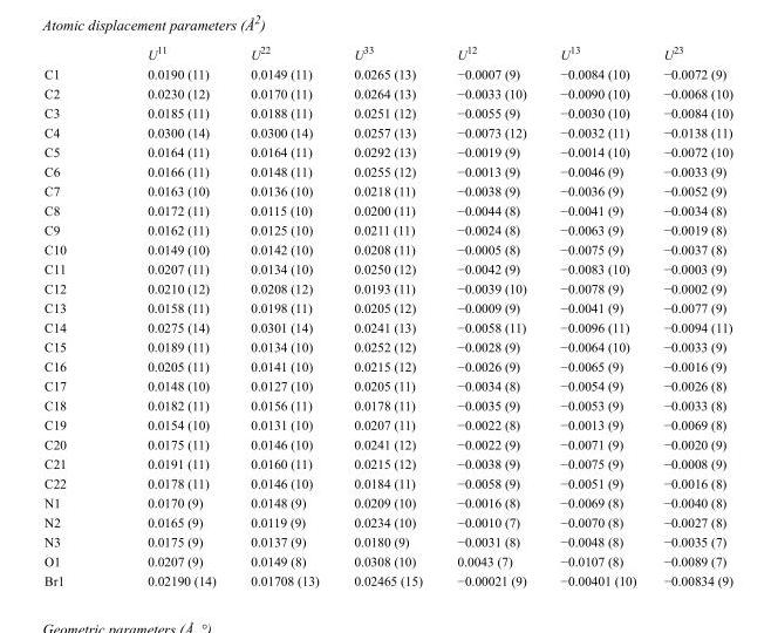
<table><thead><tr><td></td><td>U<sup>11</sup></td><td>U<sup>22</sup></td><td>U<sup>33</sup></td><td>U<sup>12</sup></td><td>U<sup>13</sup></td><td>U<sup>23</sup></td></tr></thead><tbody><tr><td>C1</td><td>0.0190 (11)</td><td>0.0149 (11)</td><td>0.0265 (13)</td><td>−0.0007 (9)</td><td>−0.0084 (10)</td><td>−0.0072 (9)</td></tr><tr><td>C2</td><td>0.0230 (12)</td><td>0.0170 (11)</td><td>0.0264 (13)</td><td>−0.0033 (10)</td><td>−0.0090 (10)</td><td>−0.0068 (10)</td></tr><tr><td>C3</td><td>0.0185 (11)</td><td>0.0188 (11)</td><td>0.0251 (12)</td><td>−0.0055 (9)</td><td>−0.0030 (10)</td><td>−0.0084 (10)</td></tr><tr><td>C4</td><td>0.0300 (14)</td><td>0.0300 (14)</td><td>0.0257 (13)</td><td>−0.0073 (12)</td><td>−0.0032 (11)</td><td>−0.0138 (11)</td></tr><tr><td>C5</td><td>0.0164 (11)</td><td>0.0164 (11)</td><td>0.0292 (13)</td><td>−0.0019 (9)</td><td>−0.0014 (10)</td><td>−0.0072 (10)</td></tr><tr><td>C6</td><td>0.0166 (11)</td><td>0.0148 (11)</td><td>0.0255 (12)</td><td>−0.0013 (9)</td><td>−0.0046 (9)</td><td>−0.0033 (9)</td></tr><tr><td>C7</td><td>0.0163 (10)</td><td>0.0136 (10)</td><td>0.0218 (11)</td><td>−0.0038 (9)</td><td>−0.0036 (9)</td><td>−0.0052 (9)</td></tr><tr><td>C8</td><td>0.0172 (11)</td><td>0.0115 (10)</td><td>0.0200 (11)</td><td>−0.0044 (8)</td><td>−0.0041 (9)</td><td>−0.0034 (8)</td></tr><tr><td>C9</td><td>0.0162 (11)</td><td>0.0125 (10)</td><td>0.0211 (11)</td><td>−0.0024 (8)</td><td>−0.0063 (9)</td><td>−0.0019 (8)</td></tr><tr><td>C10</td><td>0.0149 (10)</td><td>0.0142 (10)</td><td>0.0208 (11)</td><td>−0.0005 (8)</td><td>−0.0075 (9)</td><td>−0.0037 (8)</td></tr><tr><td>C11</td><td>0.0207 (11)</td><td>0.0134 (10)</td><td>0.0250 (12)</td><td>−0.0042 (9)</td><td>−0.0083 (10)</td><td>−0.0003 (9)</td></tr><tr><td>C12</td><td>0.0210 (12)</td><td>0.0208 (12)</td><td>0.0193 (11)</td><td>−0.0039 (10)</td><td>−0.0078 (9)</td><td>−0.0002 (9)</td></tr><tr><td>C13</td><td>0.0158 (11)</td><td>0.0198 (11)</td><td>0.0205 (12)</td><td>−0.0009 (9)</td><td>−0.0041 (9)</td><td>−0.0077 (9)</td></tr><tr><td>C14</td><td>0.0275 (14)</td><td>0.0301 (14)</td><td>0.0241 (13)</td><td>−0.0058 (11)</td><td>−0.0096 (11)</td><td>−0.0094 (11)</td></tr><tr><td>C15</td><td>0.0189 (11)</td><td>0.0134 (10)</td><td>0.0252 (12)</td><td>−0.0028 (9)</td><td>−0.0064 (10)</td><td>−0.0033 (9)</td></tr><tr><td>C16</td><td>0.0205 (11)</td><td>0.0141 (10)</td><td>0.0215 (12)</td><td>−0.0026 (9)</td><td>−0.0065 (9)</td><td>−0.0016 (9)</td></tr><tr><td>C17</td><td>0.0148 (10)</td><td>0.0127 (10)</td><td>0.0205 (11)</td><td>−0.0034 (8)</td><td>−0.0054 (9)</td><td>−0.0026 (8)</td></tr><tr><td>C18</td><td>0.0182 (11)</td><td>0.0156 (11)</td><td>0.0178 (11)</td><td>−0.0035 (9)</td><td>−0.0053 (9)</td><td>−0.0033 (8)</td></tr><tr><td>C19</td><td>0.0154 (10)</td><td>0.0131 (10)</td><td>0.0207 (11)</td><td>−0.0022 (8)</td><td>−0.0013 (9)</td><td>−0.0069 (8)</td></tr><tr><td>C20</td><td>0.0175 (11)</td><td>0.0146 (10)</td><td>0.0241 (12)</td><td>−0.0022 (9)</td><td>−0.0071 (9)</td><td>−0.0020 (9)</td></tr><tr><td>C21</td><td>0.0191 (11)</td><td>0.0160 (11)</td><td>0.0215 (12)</td><td>−0.0038 (9)</td><td>−0.0075 (9)</td><td>−0.0008 (9)</td></tr><tr><td>C22</td><td>0.0178 (11)</td><td>0.0146 (10)</td><td>0.0184 (11)</td><td>−0.0058 (9)</td><td>−0.0051 (9)</td><td>−0.0016 (8)</td></tr><tr><td>N1</td><td>0.0170 (9)</td><td>0.0148 (9)</td><td>0.0209 (10)</td><td>−0.0016 (8)</td><td>−0.0069 (8)</td><td>−0.0040 (8)</td></tr><tr><td>N2</td><td>0.0165 (9)</td><td>0.0119 (9)</td><td>0.0234 (10)</td><td>−0.0010 (7)</td><td>−0.0070 (8)</td><td>−0.0027 (8)</td></tr><tr><td>N3</td><td>0.0175 (9)</td><td>0.0137 (9)</td><td>0.0180 (9)</td><td>−0.0031 (8)</td><td>−0.0048 (8)</td><td>−0.0035 (7)</td></tr><tr><td>O1</td><td>0.0207 (9)</td><td>0.0149 (8)</td><td>0.0308 (10)</td><td>0.0043 (7)</td><td>−0.0107 (8)</td><td>−0.0089 (7)</td></tr><tr><td>Br1</td><td>0.02190 (14)</td><td>0.01708 (13)</td><td>0.02465 (15)</td><td>−0.00021 (9)</td><td>−0.00401 (10)</td><td>−0.00834 (9)</td></tr></tbody></table>